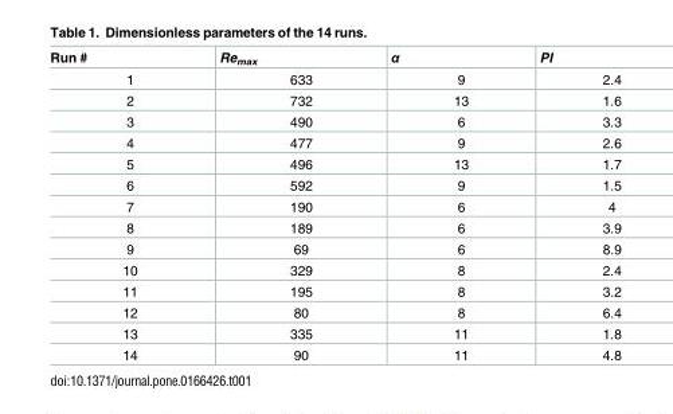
<table><thead><tr><td>Run #</td><td>Re<sub>max</sub></td><td>α</td><td>PI</td></tr></thead><tbody><tr><td>1</td><td>633</td><td>9</td><td>2.4</td></tr><tr><td>2</td><td>732</td><td>13</td><td>1.6</td></tr><tr><td>3</td><td>490</td><td>6</td><td>3.3</td></tr><tr><td>4</td><td>477</td><td>9</td><td>2.6</td></tr><tr><td>5</td><td>496</td><td>13</td><td>1.7</td></tr><tr><td>6</td><td>592</td><td>9</td><td>1.5</td></tr><tr><td>7</td><td>190</td><td>6</td><td>4</td></tr><tr><td>8</td><td>189</td><td>6</td><td>3.9</td></tr><tr><td>9</td><td>69</td><td>6</td><td>8.9</td></tr><tr><td>10</td><td>329</td><td>8</td><td>2.4</td></tr><tr><td>11</td><td>195</td><td>8</td><td>3.2</td></tr><tr><td>12</td><td>80</td><td>8</td><td>6.4</td></tr><tr><td>13</td><td>335</td><td>11</td><td>1.8</td></tr><tr><td>14</td><td>90</td><td>11</td><td>4.8</td></tr></tbody></table>